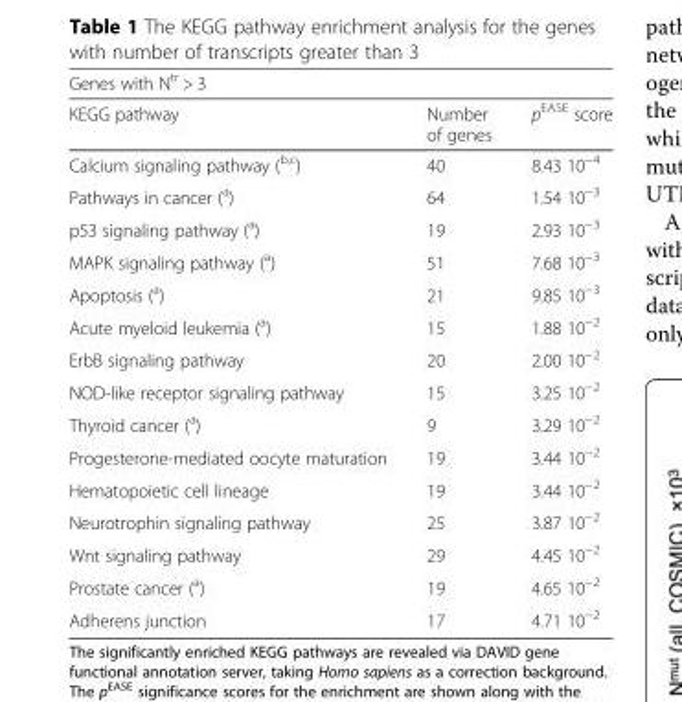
<table><thead><tr><td colspan="3">Genes with N<sup>tr</sup> &gt; 3</td></tr><tr><td>KEGG pathway</td><td>Number of genes</td><td>p<sup>EASE</sup> score</td></tr></thead><tbody><tr><td>Calcium signaling pathway (<sup>b,c</sup>)</td><td>40</td><td>8.43 10<sup>−4</sup></td></tr><tr><td>Pathways in cancer (<sup>a</sup>)</td><td>64</td><td>1.54 10<sup>−3</sup></td></tr><tr><td>p53 signaling pathway (<sup>a</sup>)</td><td>19</td><td>2.93 10<sup>−3</sup></td></tr><tr><td>MAPK signaling pathway (<sup>a</sup>)</td><td>51</td><td>7.68 10<sup>−3</sup></td></tr><tr><td>Apoptosis (<sup>a</sup>)</td><td>21</td><td>9.85 10<sup>−3</sup></td></tr><tr><td>Acute myeloid leukemia (<sup>a</sup>)</td><td>15</td><td>1.88 10<sup>−2</sup></td></tr><tr><td>ErbB signaling pathway</td><td>20</td><td>2.00 10<sup>−2</sup></td></tr><tr><td>NOD-like receptor signaling pathway</td><td>15</td><td>3.25 10<sup>−2</sup></td></tr><tr><td>Thyroid cancer (<sup>a</sup>)</td><td>9</td><td>3.29 10<sup>−2</sup></td></tr><tr><td>Progesterone-mediated oocyte maturation</td><td>19</td><td>3.44 10<sup>−2</sup></td></tr><tr><td>Hematopoietic cell lineage</td><td>19</td><td>3.44 10<sup>−2</sup></td></tr><tr><td>Neurotrophin signaling pathway</td><td>25</td><td>3.87 10<sup>−2</sup></td></tr><tr><td>Wnt signaling pathway</td><td>29</td><td>4.45 10<sup>−2</sup></td></tr><tr><td>Prostate cancer (<sup>a</sup>)</td><td>19</td><td>4.65 10<sup>−2</sup></td></tr><tr><td>Adherens junction</td><td>17</td><td>4.71 10<sup>−2</sup></td></tr></tbody></table>